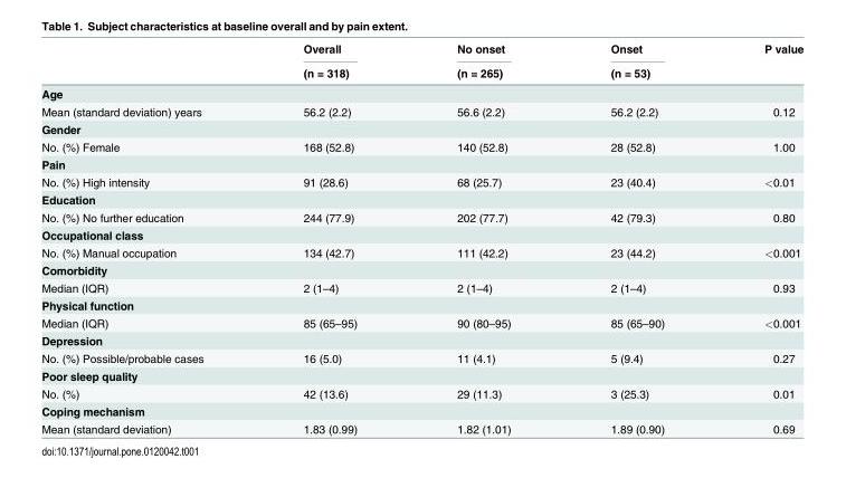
<table><thead><tr><td rowspan="2"></td><td rowspan="2">Overall (n = 318)</td><td rowspan="2">No onset (n = 265)</td><td rowspan="2">Onset (n = 53)</td><td rowspan="2">P value</td></tr><tr></tr></thead><tbody><tr><td colspan="5">Age</td></tr><tr><td>Mean (standard deviation) years</td><td>56.2 (2.2)</td><td>56.6 (2.2)</td><td>56.2 (2.2)</td><td>0.12</td></tr><tr><td colspan="5">Gender</td></tr><tr><td>No. (%) Female</td><td>168 (52.8)</td><td>140 (52.8)</td><td>28 (52.8)</td><td>1.00</td></tr><tr><td colspan="5">Pain</td></tr><tr><td>No. (%) High intensity</td><td>91 (28.6)</td><td>68 (25.7)</td><td>23 (40.4)</td><td>&lt;0.01</td></tr><tr><td colspan="5">Education</td></tr><tr><td>No. (%) No further education</td><td>244 (77.9)</td><td>202 (77.7)</td><td>42 (79.3)</td><td>0.80</td></tr><tr><td colspan="5">Occupational class</td></tr><tr><td>No. (%) Manual occupation</td><td>134 (42.7)</td><td>111 (42.2)</td><td>23 (44.2)</td><td>&lt;0.001</td></tr><tr><td colspan="5">Comorbidity</td></tr><tr><td>Median (IQR)</td><td>2 (1–4)</td><td>2 (1–4)</td><td>2 (1–4)</td><td>0.93</td></tr><tr><td colspan="5">Physical function</td></tr><tr><td>Median (IQR)</td><td>85 (65–95)</td><td>90 (80–95)</td><td>85 (65–90)</td><td>&lt;0.001</td></tr><tr><td colspan="5">Depression</td></tr><tr><td>No. (%) Possible/probable cases</td><td>16 (5.0)</td><td>11 (4.1)</td><td>5 (9.4)</td><td>0.27</td></tr><tr><td colspan="5">Poor sleep quality</td></tr><tr><td>No. (%)</td><td>42 (13.6)</td><td>29 (11.3)</td><td>3 (25.3)</td><td>0.01</td></tr><tr><td colspan="5">Coping mechanism</td></tr><tr><td>Mean (standard deviation)</td><td>1.83 (0.99)</td><td>1.82 (1.01)</td><td>1.89 (0.90)</td><td>0.69</td></tr></tbody></table>